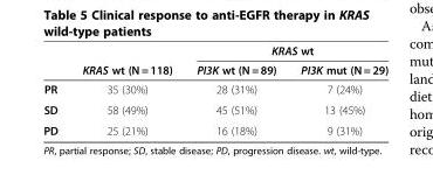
<table><thead><tr><td rowspan="2"></td><td rowspan="2">KRAS wt (N = 118)</td><td colspan="2">KRAS wt</td></tr><tr><td>PI3K wt (N = 89)</td><td>PI3K mut (N = 29)</td></tr></thead><tbody><tr><td>PR</td><td>35 (30%)</td><td>28 (31%)</td><td>7 (24%)</td></tr><tr><td>SD</td><td>58 (49%)</td><td>45 (51%)</td><td>13 (45%)</td></tr><tr><td>PD</td><td>25 (21%)</td><td>16 (18%)</td><td>9 (31%)</td></tr></tbody></table>